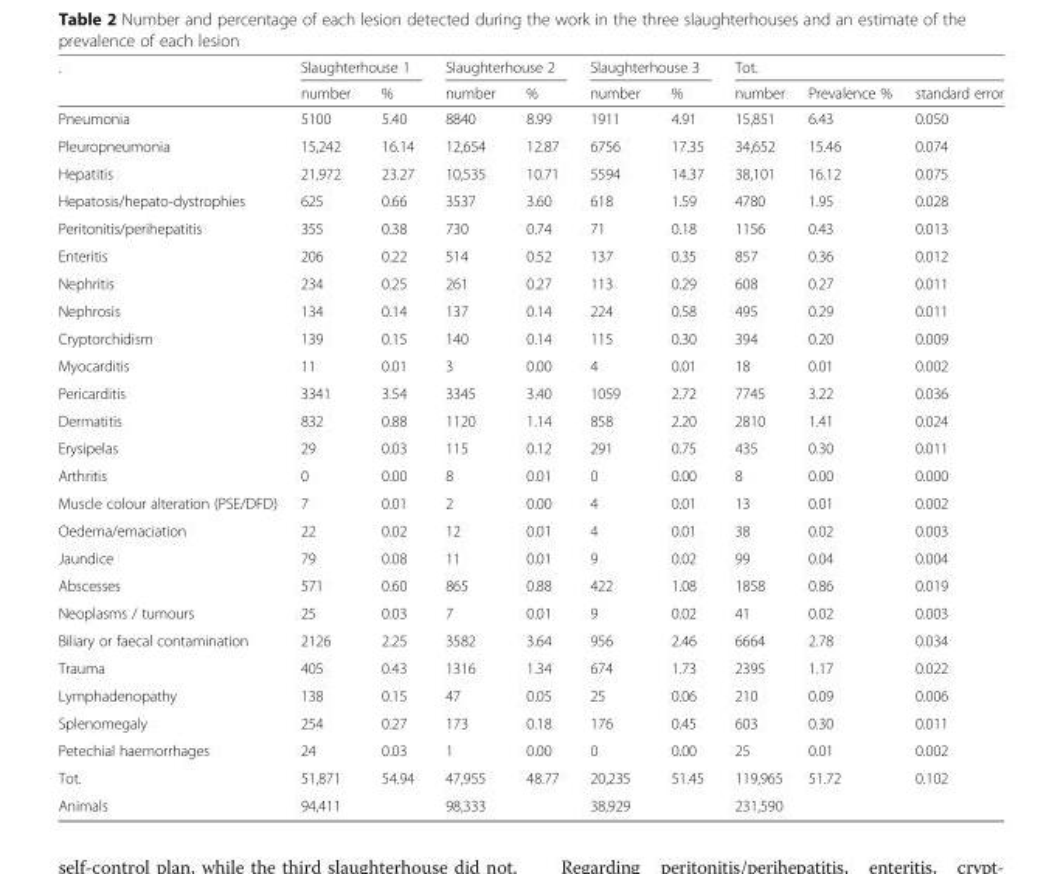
<table><thead><tr><td rowspan="2">.</td><td colspan="2">Slaughterhouse 1</td><td colspan="2">Slaughterhouse 2</td><td colspan="2">Slaughterhouse 3</td><td colspan="3">Tot.</td></tr><tr><td>number</td><td>%</td><td>number</td><td>%</td><td>number</td><td>%</td><td>number</td><td>Prevalence %</td><td>standard error</td></tr></thead><tbody><tr><td>Pneumonia</td><td>5100</td><td>5.40</td><td>8840</td><td>8.99</td><td>1911</td><td>4.91</td><td>15,851</td><td>6.43</td><td>0.050</td></tr><tr><td>Pleuropneumonia</td><td>15,242</td><td>16.14</td><td>12,654</td><td>12.87</td><td>6756</td><td>17.35</td><td>34,652</td><td>15.46</td><td>0.074</td></tr><tr><td>Hepatitis</td><td>21,972</td><td>23.27</td><td>10,535</td><td>10.71</td><td>5594</td><td>14.37</td><td>38,101</td><td>16.12</td><td>0.075</td></tr><tr><td>Hepatosis/hepato-dystrophies</td><td>625</td><td>0.66</td><td>3537</td><td>3.60</td><td>618</td><td>1.59</td><td>4780</td><td>1.95</td><td>0.028</td></tr><tr><td>Peritonitis/perihepatitis</td><td>355</td><td>0.38</td><td>730</td><td>0.74</td><td>71</td><td>0.18</td><td>1156</td><td>0.43</td><td>0.013</td></tr><tr><td>Enteritis</td><td>206</td><td>0.22</td><td>514</td><td>0.52</td><td>137</td><td>0.35</td><td>857</td><td>0.36</td><td>0.012</td></tr><tr><td>Nephritis</td><td>234</td><td>0.25</td><td>261</td><td>0.27</td><td>113</td><td>0.29</td><td>608</td><td>0.27</td><td>0.011</td></tr><tr><td>Nephrosis</td><td>134</td><td>0.14</td><td>137</td><td>0.14</td><td>224</td><td>0.58</td><td>495</td><td>0.29</td><td>0.011</td></tr><tr><td>Cryptorchidism</td><td>139</td><td>0.15</td><td>140</td><td>0.14</td><td>115</td><td>0.30</td><td>394</td><td>0.20</td><td>0.009</td></tr><tr><td>Myocarditis</td><td>11</td><td>0.01</td><td>3</td><td>0.00</td><td>4</td><td>0.01</td><td>18</td><td>0.01</td><td>0.002</td></tr><tr><td>Pericarditis</td><td>3341</td><td>3.54</td><td>3345</td><td>3.40</td><td>1059</td><td>2.72</td><td>7745</td><td>3.22</td><td>0.036</td></tr><tr><td>Dermatitis</td><td>832</td><td>0.88</td><td>1120</td><td>1.14</td><td>858</td><td>2.20</td><td>2810</td><td>1.41</td><td>0.024</td></tr><tr><td>Erysipelas</td><td>29</td><td>0.03</td><td>115</td><td>0.12</td><td>291</td><td>0.75</td><td>435</td><td>0.30</td><td>0.011</td></tr><tr><td>Arthritis</td><td>0</td><td>0.00</td><td>8</td><td>0.01</td><td>0</td><td>0.00</td><td>8</td><td>0.00</td><td>0.000</td></tr><tr><td>Muscle colour alteration (PSE/DFD)</td><td>7</td><td>0.01</td><td>2</td><td>0.00</td><td>4</td><td>0.01</td><td>13</td><td>0.01</td><td>0.002</td></tr><tr><td>Oedema/emaciation</td><td>22</td><td>0.02</td><td>12</td><td>0.01</td><td>4</td><td>0.01</td><td>38</td><td>0.02</td><td>0.003</td></tr><tr><td>Jaundice</td><td>79</td><td>0.08</td><td>11</td><td>0.01</td><td>9</td><td>0.02</td><td>99</td><td>0.04</td><td>0.004</td></tr><tr><td>Abscesses</td><td>571</td><td>0.60</td><td>865</td><td>0.88</td><td>422</td><td>1.08</td><td>1858</td><td>0.86</td><td>0.019</td></tr><tr><td>Neoplasms / tumours</td><td>25</td><td>0.03</td><td>7</td><td>0.01</td><td>9</td><td>0.02</td><td>41</td><td>0.02</td><td>0.003</td></tr><tr><td>Biliary or faecal contamination</td><td>2126</td><td>2.25</td><td>3582</td><td>3.64</td><td>956</td><td>2.46</td><td>6664</td><td>2.78</td><td>0.034</td></tr><tr><td>Trauma</td><td>405</td><td>0.43</td><td>1316</td><td>1.34</td><td>674</td><td>1.73</td><td>2395</td><td>1.17</td><td>0.022</td></tr><tr><td>Lymphadenopathy</td><td>138</td><td>0.15</td><td>47</td><td>0.05</td><td>25</td><td>0.06</td><td>210</td><td>0.09</td><td>0.006</td></tr><tr><td>Splenomegaly</td><td>254</td><td>0.27</td><td>173</td><td>0.18</td><td>176</td><td>0.45</td><td>603</td><td>0.30</td><td>0.011</td></tr><tr><td>Petechial haemorrhages</td><td>24</td><td>0.03</td><td>1</td><td>0.00</td><td>0</td><td>0.00</td><td>25</td><td>0.01</td><td>0.002</td></tr><tr><td>Tot.</td><td>51,871</td><td>54.94</td><td>47,955</td><td>48.77</td><td>20,235</td><td>51.45</td><td>119,965</td><td>51.72</td><td>0.102</td></tr><tr><td>Animals</td><td>94,411</td><td></td><td>98,333</td><td></td><td>38,929</td><td></td><td>231,590</td><td></td><td></td></tr></tbody></table>